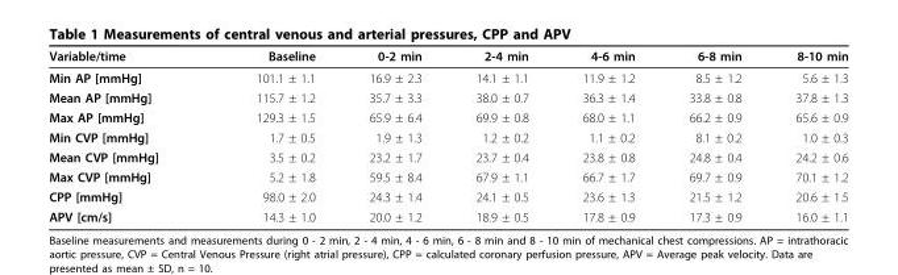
<table><thead><tr><td>Variable/time</td><td>Baseline</td><td>0-2 min</td><td>2-4 min</td><td>4-6 min</td><td>6-8 min</td><td>8-10 min</td></tr></thead><tbody><tr><td>Min AP [mmHg]</td><td>101.1 ± 1.1</td><td>16.9 ± 2.3</td><td>14.1 ± 1.1</td><td>11.9 ± 1.2</td><td>8.5 ± 1.2</td><td>5.6 ± 1.3</td></tr><tr><td>Mean AP [mmHg]</td><td>115.7 ± 1.2</td><td>35.7 ± 3.3</td><td>38.0 ± 0.7</td><td>36.3 ± 1.4</td><td>33.8 ± 0.8</td><td>37.8 ± 1.3</td></tr><tr><td>Max AP [mmHg]</td><td>129.3 ± 1.5</td><td>65.9 ± 6.4</td><td>69.9 ± 0.8</td><td>68.0 ± 1.1</td><td>66.2 ± 0.9</td><td>65.6 ± 0.9</td></tr><tr><td>Min CVP [mmHg]</td><td>1.7 ± 0.5</td><td>1.9 ± 1.3</td><td>1.2 ± 0.2</td><td>1.1 ± 0.2</td><td>8.1 ± 0.2</td><td>1.0 ± 0.3</td></tr><tr><td>Mean CVP [mmHg]</td><td>3.5 ± 0.2</td><td>23.2 ± 1.7</td><td>23.7 ± 0.4</td><td>23.8 ± 0.8</td><td>24.8 ± 0.4</td><td>24.2 ± 0.6</td></tr><tr><td>Max CVP [mmHg]</td><td>5.2 ± 1.8</td><td>59.5 ± 8.4</td><td>67.9 ± 1.1</td><td>66.7 ± 1.7</td><td>69.7 ± 0.9</td><td>70.1 ± 1.2</td></tr><tr><td>CPP [mmHg]</td><td>98.0 ± 2.0</td><td>24.3 ± 1.4</td><td>24.1 ± 0.5</td><td>23.6 ± 1.3</td><td>21.5 ± 1.2</td><td>20.6 ± 1.5</td></tr><tr><td>APV [cm/s]</td><td>14.3 ± 1.0</td><td>20.0 ± 1.2</td><td>18.9 ± 0.5</td><td>17.8 ± 0.9</td><td>17.3 ± 0.9</td><td>16.0 ± 1.1</td></tr></tbody></table>